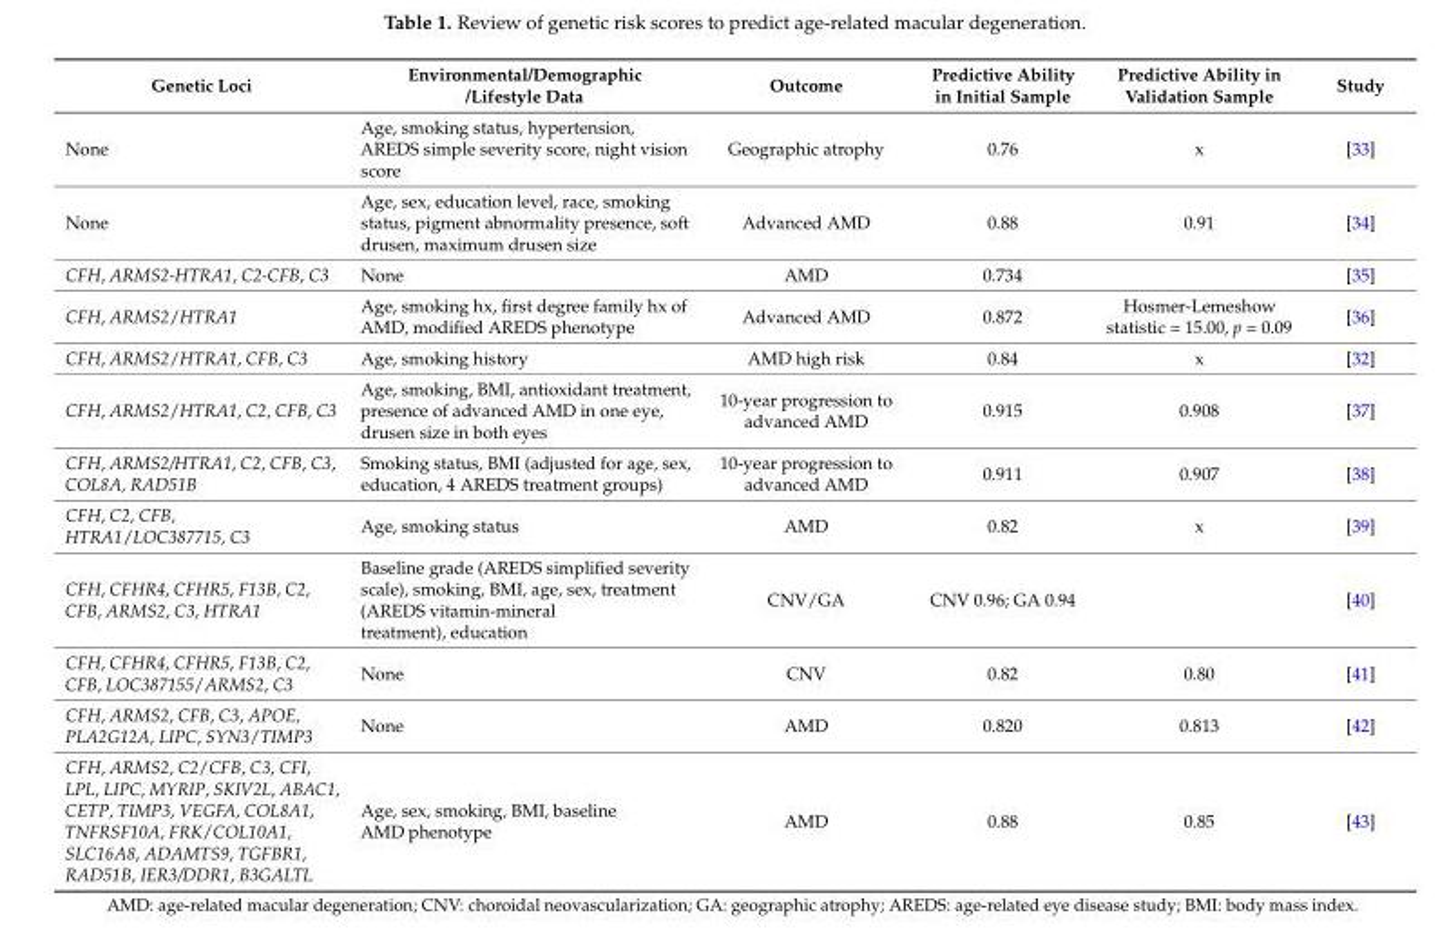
<table><thead><tr><td>Genetic Loci</td><td>Environmental/Demographic /Lifestyle Data</td><td>Outcome</td><td>Predictive Ability in Initial Sample</td><td>Predictive Ability in Validation Sample</td><td>Study</td></tr></thead><tbody><tr><td>None</td><td>Age, smoking status, hypertension, AREDS simple severity score, night vision score</td><td>Geographic atrophy</td><td>0.76</td><td>x</td><td>[33]</td></tr><tr><td>None</td><td>Age, sex, education level, race, smoking status, pigment abnormality presence, soft drusen, maximum drusen size</td><td>Advanced AMD</td><td>0.88</td><td>0.91</td><td>[34]</td></tr><tr><td>CFH, ARMS2-HTRA1, C2-CFB, C3</td><td>None</td><td>AMD</td><td>0.734</td><td></td><td>[35]</td></tr><tr><td>CFH, ARMS2/HTRA1</td><td>Age, smoking hx, first degree family hx of AMD, modified AREDS phenotype</td><td>Advanced AMD</td><td>0.872</td><td>Hosmer-Lemeshow statistic = 15.00, p = 0.09</td><td>[36]</td></tr><tr><td>CFH, ARMS2/HTRA1, CFB, C3</td><td>Age, smoking history</td><td>AMD high risk</td><td>0.84</td><td>x</td><td>[32]</td></tr><tr><td>CFH, ARMS2/HTRA1, C2, CFB, C3</td><td>Age, smoking, BMI, antioxidant treatment, presence of advanced AMD in one eye, drusen size in both eyes</td><td>10-year progression to advanced AMD</td><td>0.915</td><td>0.908</td><td>[37]</td></tr><tr><td>CFH, ARMS2/HTRA1, C2, CFB, C3, COL8A, RAD51B</td><td>Smoking status, BMI (adjusted for age, sex, education, 4 AREDS treatment groups)</td><td>10-year progression to advanced AMD</td><td>0.911</td><td>0.907</td><td>[38]</td></tr><tr><td>CFH, C2, CFB, HTRA1/LOC387715, C3</td><td>Age, smoking status</td><td>AMD</td><td>0.82</td><td>x</td><td>[39]</td></tr><tr><td>CFH, CFHR4, CFHR5, F13B, C2, CFB, ARMS2, C3, HTRA1</td><td>Baseline grade (AREDS simplified severity scale), smoking, BMI, age, sex, treatment (AREDS vitamin-mineral treatment), education</td><td>CNV/GA</td><td>CNV 0.96; GA 0.94</td><td></td><td>[40]</td></tr><tr><td>CFH, CFHR4, CFHR5, F13B, C2, CFB, LOC387155/ARMS2, C3</td><td>None</td><td>CNV</td><td>0.82</td><td>0.80</td><td>[41]</td></tr><tr><td>CFH, ARMS2, CFB, C3, APOE, PLA2G12A, LIPC, SYN3/TIMP3</td><td>None</td><td>AMD</td><td>0.820</td><td>0.813</td><td>[42]</td></tr><tr><td>CFH, ARMS2, C2/CFB, C3, CFI, LPL, LIPC, MYRIP, SKIV2L, ABAC1, CETP, TIMP3, VEGFA, COL8A1, TNFRSF10A, FRK/COL10A1, SLC16A8, ADAMTS9, TGFBR1, RAD51B, IER3/DDR1, B3GALTL</td><td>Age, sex, smoking, BMI, baseline AMD phenotype</td><td>AMD</td><td>0.88</td><td>0.85</td><td>[43]</td></tr></tbody></table>